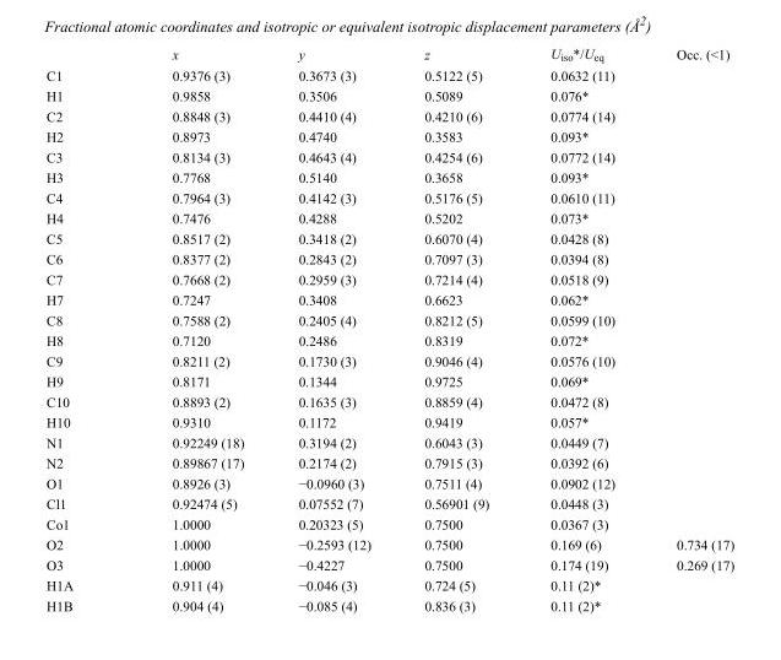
<table><thead><tr><td></td><td>x</td><td>y</td><td>z</td><td>U<sub>iso</sub>*/U<sub>eq</sub></td><td>Occ. (&lt;1)</td></tr></thead><tbody><tr><td>C1</td><td>0.9376 (3)</td><td>0.3673 (3)</td><td>0.5122 (5)</td><td>0.0632 (11)</td><td></td></tr><tr><td>H1</td><td>0.9858</td><td>0.3506</td><td>0.5089</td><td>0.076*</td><td></td></tr><tr><td>C2</td><td>0.8848 (3)</td><td>0.4410 (4)</td><td>0.4210 (6)</td><td>0.0774 (14)</td><td></td></tr><tr><td>H2</td><td>0.8973</td><td>0.4740</td><td>0.3583</td><td>0.093*</td><td></td></tr><tr><td>C3</td><td>0.8134 (3)</td><td>0.4643 (4)</td><td>0.4254 (6)</td><td>0.0772 (14)</td><td></td></tr><tr><td>H3</td><td>0.7768</td><td>0.5140</td><td>0.3658</td><td>0.093*</td><td></td></tr><tr><td>C4</td><td>0.7964 (3)</td><td>0.4142 (3)</td><td>0.5176 (5)</td><td>0.0610 (11)</td><td></td></tr><tr><td>H4</td><td>0.7476</td><td>0.4288</td><td>0.5202</td><td>0.073*</td><td></td></tr><tr><td>C5</td><td>0.8517 (2)</td><td>0.3418 (2)</td><td>0.6070 (4)</td><td>0.0428 (8)</td><td></td></tr><tr><td>C6</td><td>0.8377 (2)</td><td>0.2843 (2)</td><td>0.7097 (3)</td><td>0.0394 (8)</td><td></td></tr><tr><td>C7</td><td>0.7668 (2)</td><td>0.2959 (3)</td><td>0.7214 (4)</td><td>0.0518 (9)</td><td></td></tr><tr><td>H7</td><td>0.7247</td><td>0.3408</td><td>0.6623</td><td>0.062*</td><td></td></tr><tr><td>C8</td><td>0.7588 (2)</td><td>0.2405 (4)</td><td>0.8212 (5)</td><td>0.0599 (10)</td><td></td></tr><tr><td>H8</td><td>0.7120</td><td>0.2486</td><td>0.8319</td><td>0.072*</td><td></td></tr><tr><td>C9</td><td>0.8211 (2)</td><td>0.1730 (3)</td><td>0.9046 (4)</td><td>0.0576 (10)</td><td></td></tr><tr><td>H9</td><td>0.8171</td><td>0.1344</td><td>0.9725</td><td>0.069*</td><td></td></tr><tr><td>C10</td><td>0.8893 (2)</td><td>0.1635 (3)</td><td>0.8859 (4)</td><td>0.0472 (8)</td><td></td></tr><tr><td>H10</td><td>0.9310</td><td>0.1172</td><td>0.9419</td><td>0.057*</td><td></td></tr><tr><td>N1</td><td>0.92249 (18)</td><td>0.3194 (2)</td><td>0.6043 (3)</td><td>0.0449 (7)</td><td></td></tr><tr><td>N2</td><td>0.89867 (17)</td><td>0.2174 (2)</td><td>0.7915 (3)</td><td>0.0392 (6)</td><td></td></tr><tr><td>O1</td><td>0.8926 (3)</td><td>−0.0960 (3)</td><td>0.7511 (4)</td><td>0.0902 (12)</td><td></td></tr><tr><td>Cl1</td><td>0.92474 (5)</td><td>0.07552 (7)</td><td>0.56901 (9)</td><td>0.0448 (3)</td><td></td></tr><tr><td>Co1</td><td>1.0000</td><td>0.20323 (5)</td><td>0.7500</td><td>0.0367 (3)</td><td></td></tr><tr><td>O2</td><td>1.0000</td><td>−0.2593 (12)</td><td>0.7500</td><td>0.169 (6)</td><td>0.734 (17)</td></tr><tr><td>O3</td><td>1.0000</td><td>−0.4227</td><td>0.7500</td><td>0.174 (19)</td><td>0.269 (17)</td></tr><tr><td>H1A</td><td>0.911 (4)</td><td>−0.046 (3)</td><td>0.724 (5)</td><td>0.11 (2)*</td><td></td></tr><tr><td>H1B</td><td>0.904 (4)</td><td>−0.085 (4)</td><td>0.836 (3)</td><td>0.11 (2)*</td><td></td></tr></tbody></table>